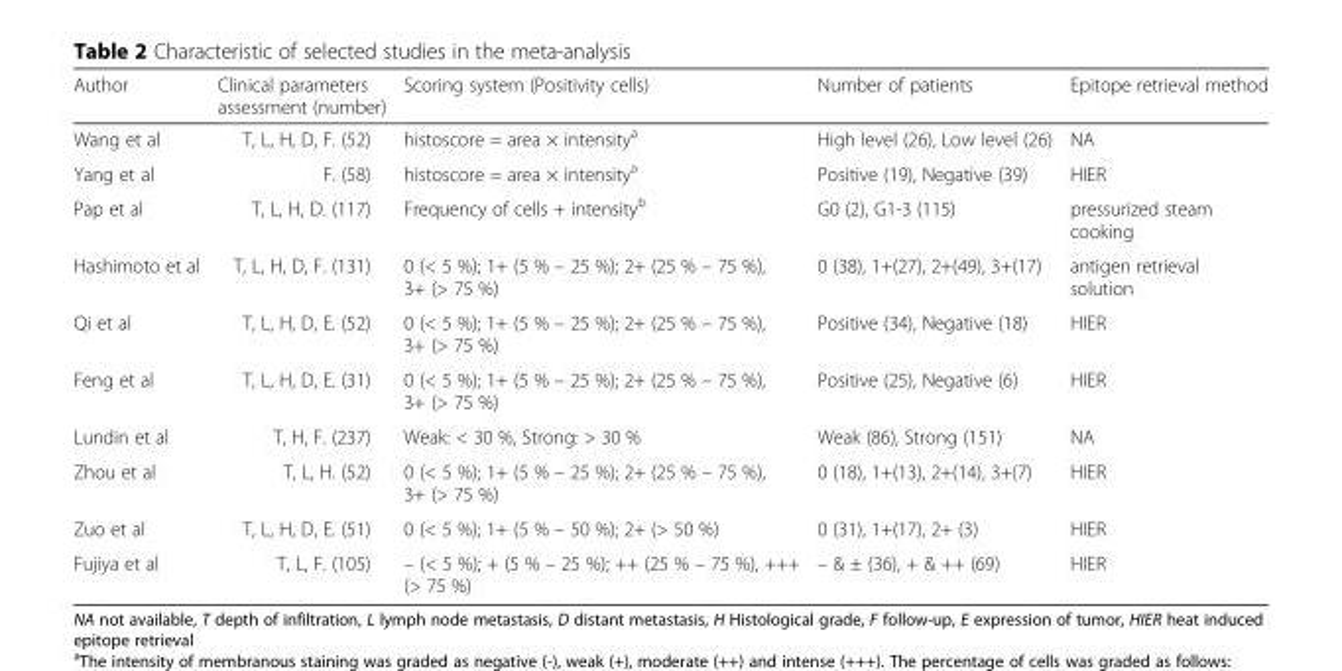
<table><thead><tr><td>Author</td><td>Clinical parameters assessment (number)</td><td>Scoring system (Positivity cells)</td><td>Number of patients</td><td>Epitope retrieval method</td></tr></thead><tbody><tr><td>Wang et al</td><td>T, L, H, D, F. (52)</td><td>histoscore = area × intensity<sup>a</sup></td><td>High level (26), Low level (26)</td><td>NA</td></tr><tr><td>Yang et al</td><td>F. (58)</td><td>histoscore = area × intensity<sup>a</sup></td><td>Positive (19), Negative (39)</td><td>HIER</td></tr><tr><td>Pap et al</td><td>T, L, H, D. (117)</td><td>Frequency of cells + intensity<sup>b</sup></td><td>G0 (2), G1-3 (115)</td><td>pressurized steam cooking</td></tr><tr><td>Hashimoto et al</td><td>T, L, H, D, F. (131)</td><td>0 (&lt; 5 %); 1+ (5 % – 25 %); 2+ (25 % – 75 %), 3+ (&gt; 75 %)</td><td>0 (38), 1+(27), 2+(49), 3+(17)</td><td>antigen retrieval solution</td></tr><tr><td>Qi et al</td><td>T, L, H, D, E. (52)</td><td>0 (&lt; 5 %); 1+ (5 % – 25 %); 2+ (25 % – 75 %), 3+ (&gt; 75 %)</td><td>Positive (34), Negative (18)</td><td>HIER</td></tr><tr><td>Feng et al</td><td>T, L, H, D, E. (31)</td><td>0 (&lt; 5 %); 1+ (5 % – 25 %); 2+ (25 % – 75 %), 3+ (&gt; 75 %)</td><td>Positive (25), Negative (6)</td><td>HIER</td></tr><tr><td>Lundin et al</td><td>T, H, F. (237)</td><td>Weak: &lt; 30 %, Strong: &gt; 30 %</td><td>Weak (86), Strong (151)</td><td>NA</td></tr><tr><td>Zhou et al</td><td>T, L, H. (52)</td><td>0 (&lt; 5 %); 1+ (5 % – 25 %); 2+ (25 % – 75 %), 3+ (&gt; 75 %)</td><td>0 (18), 1+(13), 2+(14), 3+(7)</td><td>HIER</td></tr><tr><td>Zuo et al</td><td>T, L, H, D, E. (51)</td><td>0 (&lt; 5 %); 1+ (5 % – 50 %); 2+ (&gt; 50 %)</td><td>0 (31), 1+(17), 2+ (3)</td><td>HIER</td></tr><tr><td>Fujiya et al</td><td>T, L, F. (105)</td><td>– (&lt; 5 %); + (5 % – 25 %); ++ (25 % – 75 %), +++ (&gt; 75 %)</td><td>– &amp; ± (36), + &amp; ++ (69)</td><td>HIER</td></tr></tbody></table>